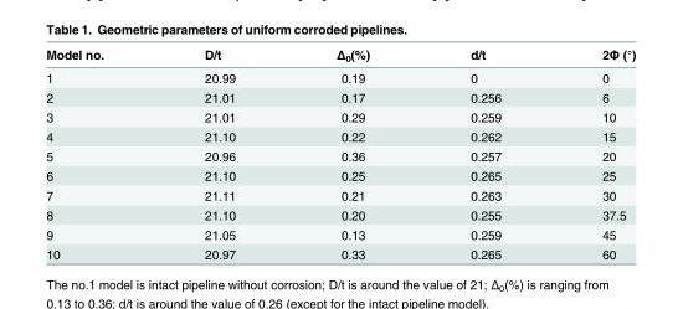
<table><thead><tr><td>Model no.</td><td>D/t</td><td>Δ<sub>0</sub>(%)</td><td>d/t</td><td>2Φ (°)</td></tr></thead><tbody><tr><td>1</td><td>20.99</td><td>0.19</td><td>0</td><td>0</td></tr><tr><td>2</td><td>21.01</td><td>0.17</td><td>0.256</td><td>6</td></tr><tr><td>3</td><td>21.01</td><td>0.29</td><td>0.259</td><td>10</td></tr><tr><td>4</td><td>21.10</td><td>0.22</td><td>0.262</td><td>15</td></tr><tr><td>5</td><td>20.96</td><td>0.36</td><td>0.257</td><td>20</td></tr><tr><td>6</td><td>21.10</td><td>0.25</td><td>0.265</td><td>25</td></tr><tr><td>7</td><td>21.11</td><td>0.21</td><td>0.263</td><td>30</td></tr><tr><td>8</td><td>21.10</td><td>0.20</td><td>0.255</td><td>37.5</td></tr><tr><td>9</td><td>21.05</td><td>0.13</td><td>0.259</td><td>45</td></tr><tr><td>10</td><td>20.97</td><td>0.33</td><td>0.265</td><td>60</td></tr></tbody></table>